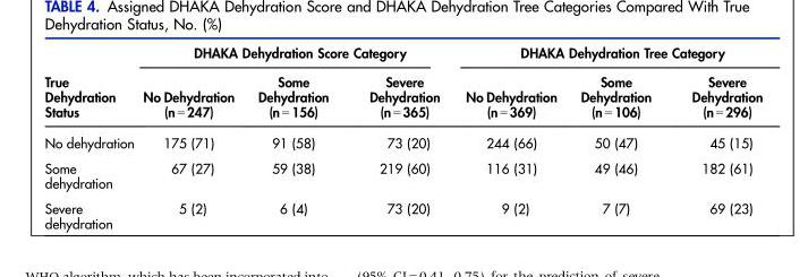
<table><thead><tr><td rowspan="2">True Dehydration Status</td><td colspan="3">DHAKA Dehydration Score Category</td><td colspan="3">DHAKA Dehydration Tree Category</td></tr><tr><td>No Dehydration (n = 247)</td><td>Some Dehydration (n = 156)</td><td>Severe Dehydration (n = 365)</td><td>No Dehydration (n = 369)</td><td>Some Dehydration (n = 106)</td><td>Severe Dehydration (n = 296)</td></tr></thead><tbody><tr><td>No dehydration</td><td>175 (71)</td><td>91 (58)</td><td>73 (20)</td><td>244 (66)</td><td>50 (47)</td><td>45 (15)</td></tr><tr><td>Some dehydration</td><td>67 (27)</td><td>59 (38)</td><td>219 (60)</td><td>116 (31)</td><td>49 (46)</td><td>182 (61)</td></tr><tr><td>Severe dehydration</td><td>5 (2)</td><td>6 (4)</td><td>73 (20)</td><td>9 (2)</td><td>7 (7)</td><td>69 (23)</td></tr></tbody></table>